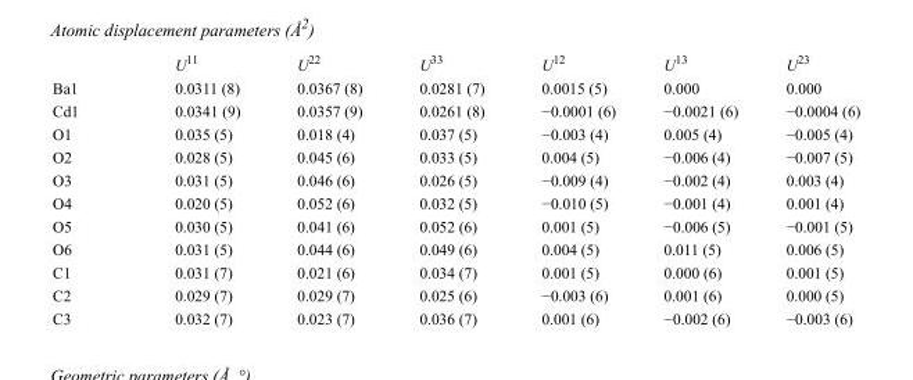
<table><thead><tr><td></td><td>U<sup>11</sup></td><td>U<sup>22</sup></td><td>U<sup>33</sup></td><td>U<sup>12</sup></td><td>U<sup>13</sup></td><td>U<sup>23</sup></td></tr></thead><tbody><tr><td>Ba1</td><td>0.0311 (8)</td><td>0.0367 (8)</td><td>0.0281 (7)</td><td>0.0015 (5)</td><td>0.000</td><td>0.000</td></tr><tr><td>Cd1</td><td>0.0341 (9)</td><td>0.0357 (9)</td><td>0.0261 (8)</td><td>−0.0001 (6)</td><td>−0.0021 (6)</td><td>−0.0004 (6)</td></tr><tr><td>O1</td><td>0.035 (5)</td><td>0.018 (4)</td><td>0.037 (5)</td><td>−0.003 (4)</td><td>0.005 (4)</td><td>−0.005 (4)</td></tr><tr><td>O2</td><td>0.028 (5)</td><td>0.045 (6)</td><td>0.033 (5)</td><td>0.004 (5)</td><td>−0.006 (4)</td><td>−0.007 (5)</td></tr><tr><td>O3</td><td>0.031 (5)</td><td>0.046 (6)</td><td>0.026 (5)</td><td>−0.009 (4)</td><td>−0.002 (4)</td><td>0.003 (4)</td></tr><tr><td>O4</td><td>0.020 (5)</td><td>0.052 (6)</td><td>0.032 (5)</td><td>−0.010 (5)</td><td>−0.001 (4)</td><td>0.001 (4)</td></tr><tr><td>O5</td><td>0.030 (5)</td><td>0.041 (6)</td><td>0.052 (6)</td><td>0.001 (5)</td><td>−0.006 (5)</td><td>−0.001 (5)</td></tr><tr><td>O6</td><td>0.031 (5)</td><td>0.044 (6)</td><td>0.049 (6)</td><td>0.004 (5)</td><td>0.011 (5)</td><td>0.006 (5)</td></tr><tr><td>C1</td><td>0.031 (7)</td><td>0.021 (6)</td><td>0.034 (7)</td><td>0.001 (5)</td><td>0.000 (6)</td><td>0.001 (5)</td></tr><tr><td>C2</td><td>0.029 (7)</td><td>0.029 (7)</td><td>0.025 (6)</td><td>−0.003 (6)</td><td>0.001 (6)</td><td>0.000 (5)</td></tr><tr><td>C3</td><td>0.032 (7)</td><td>0.023 (7)</td><td>0.036 (7)</td><td>0.001 (6)</td><td>−0.002 (6)</td><td>−0.003 (6)</td></tr></tbody></table>